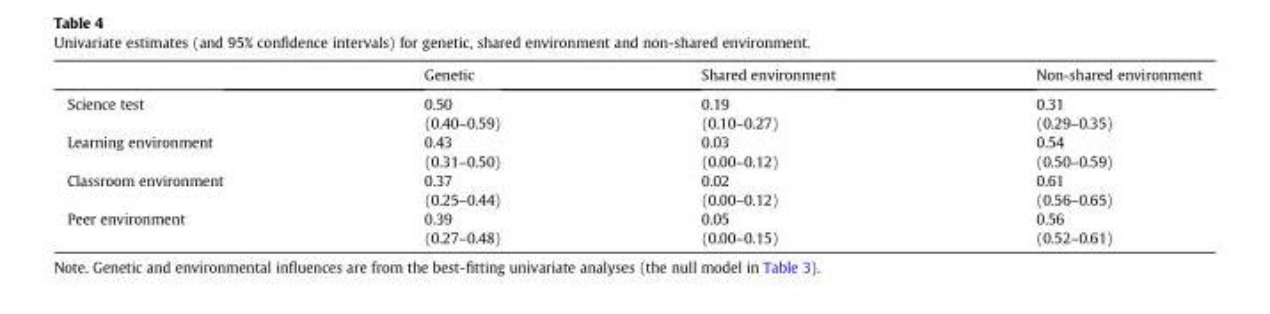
<table><thead><tr><td></td><td>Genetic</td><td>Shared environment</td><td>Non-shared environment</td></tr></thead><tbody><tr><td rowspan="2">Science test</td><td>0.50</td><td>0.19</td><td>0.31</td></tr><tr><td>(0.40–0.59)</td><td>(0.10–0.27)</td><td>(0.29–0.35)</td></tr><tr><td rowspan="2">Learning environment</td><td>0.43</td><td>0.03</td><td>0.54</td></tr><tr><td>(0.31–0.50)</td><td>(0.00–0.12)</td><td>(0.50–0.59)</td></tr><tr><td rowspan="2">Classroom environment</td><td>0.37</td><td>0.02</td><td>0.61</td></tr><tr><td>(0.25–0.44)</td><td>(0.00–0.12)</td><td>(0.56–0.65)</td></tr><tr><td rowspan="2">Peer environment</td><td>0.39</td><td>0.05</td><td>0.56</td></tr><tr><td>(0.27–0.48)</td><td>(0.00–0.15)</td><td>(0.52–0.61)</td></tr></tbody></table>